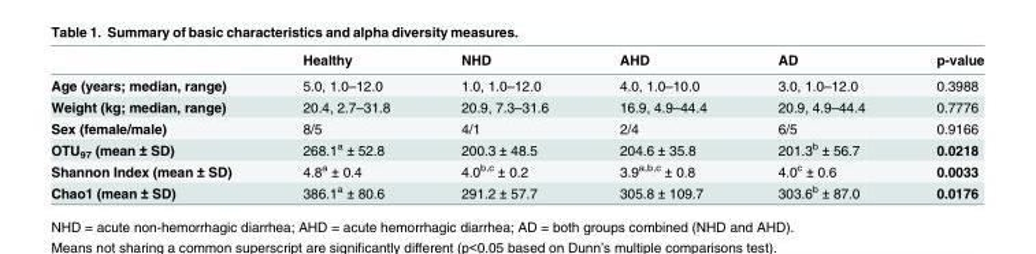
<table><thead><tr><td></td><td>Healthy</td><td>NHD</td><td>AHD</td><td>AD</td><td>p-value</td></tr></thead><tbody><tr><td>Age (years; median, range)</td><td>5.0, 1.0–12.0</td><td>1.0, 1.0–12.0</td><td>4.0, 1.0–10.0</td><td>3.0, 1.0–12.0</td><td>0.3988</td></tr><tr><td>Weight (kg; median, range)</td><td>20.4, 2.7–31.8</td><td>20.9, 7.3–31.6</td><td>16.9, 4.9–44.4</td><td>20.9, 4.9–44.4</td><td>0.7776</td></tr><tr><td>Sex (female/male)</td><td>8/5</td><td>4/1</td><td>2/4</td><td>6/5</td><td>0.9166</td></tr><tr><td>OTU<sub>97</sub> (mean ± SD)</td><td>268.1<sup>a</sup> ± 52.8</td><td>200.3 ± 48.5</td><td>204.6 ± 35.8</td><td>201.3<sup>b</sup> ± 56.7</td><td>0.0218</td></tr><tr><td>Shannon Index (mean ± SD)</td><td>4.8<sup>a</sup> ± 0.4</td><td>4.0<sup>b,c</sup> ± 0.2</td><td>3.9<sup>a,b,c</sup> ± 0.8</td><td>4.0<sup>c</sup> ± 0.6</td><td>0.0033</td></tr><tr><td>Chao1 (mean ± SD)</td><td>386.1<sup>a</sup> ± 80.6</td><td>291.2 ± 57.7</td><td>305.8 ± 109.7</td><td>303.6<sup>b</sup> ± 87.0</td><td>0.0176</td></tr></tbody></table>